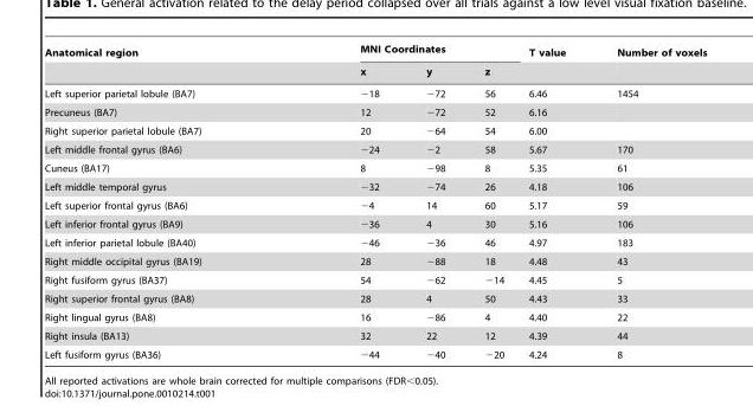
<table><thead><tr><td rowspan="2">Anatomical region</td><td colspan="3">MNI Coordinates</td><td rowspan="2">T value</td><td rowspan="2">Number of voxels</td></tr><tr><td>x</td><td>y</td><td>z</td></tr></thead><tbody><tr><td>Left superior parietal lobule (BA7)</td><td>−18</td><td>−72</td><td>56</td><td>6.46</td><td>1454</td></tr><tr><td>Precuneus (BA7)</td><td>12</td><td>−72</td><td>52</td><td>6.16</td><td></td></tr><tr><td>Right superior parietal lobule (BA7)</td><td>20</td><td>−64</td><td>54</td><td>6.00</td><td></td></tr><tr><td>Left middle frontal gyrus (BA6)</td><td>−24</td><td>−2</td><td>58</td><td>5.67</td><td>170</td></tr><tr><td>Cuneus (BA17)</td><td>8</td><td>−98</td><td>8</td><td>5.35</td><td>61</td></tr><tr><td>Left middle temporal gyrus</td><td>−32</td><td>−74</td><td>26</td><td>4.18</td><td>106</td></tr><tr><td>Left superior frontal gyrus (BA6)</td><td>−4</td><td>14</td><td>60</td><td>5.17</td><td>59</td></tr><tr><td>Left inferior frontal gyrus (BA9)</td><td>−36</td><td>4</td><td>30</td><td>5.16</td><td>106</td></tr><tr><td>Left inferior parietal lobule (BA40)</td><td>−46</td><td>−36</td><td>46</td><td>4.97</td><td>183</td></tr><tr><td>Right middle occipital gyrus (BA19)</td><td>28</td><td>−88</td><td>18</td><td>4.48</td><td>43</td></tr><tr><td>Right fusiform gyrus (BA37)</td><td>54</td><td>−62</td><td>−14</td><td>4.45</td><td>5</td></tr><tr><td>Right superior frontal gyrus (BA8)</td><td>28</td><td>4</td><td>50</td><td>4.43</td><td>33</td></tr><tr><td>Right lingual gyrus (BA8)</td><td>16</td><td>−86</td><td>4</td><td>4.40</td><td>22</td></tr><tr><td>Right insula (BA13)</td><td>32</td><td>22</td><td>12</td><td>4.39</td><td>44</td></tr><tr><td>Left fusiform gyrus (BA36)</td><td>−44</td><td>−40</td><td>−20</td><td>4.24</td><td>8</td></tr></tbody></table>